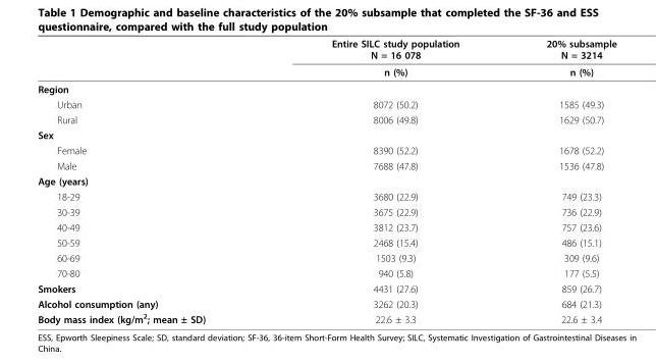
<table><thead><tr><td rowspan="2"></td><td rowspan="2">Entire SILC study population N = 16 078 n (%)</td><td rowspan="2">20% subsample N = 3214 n (%)</td></tr><tr></tr></thead><tbody><tr><td colspan="3">Region</td></tr><tr><td>Urban</td><td>8072 (50.2)</td><td>1585 (49.3)</td></tr><tr><td>Rural</td><td>8006 (49.8)</td><td>1629 (50.7)</td></tr><tr><td colspan="3">Sex</td></tr><tr><td>Female</td><td>8390 (52.2)</td><td>1678 (52.2)</td></tr><tr><td>Male</td><td>7688 (47.8)</td><td>1536 (47.8)</td></tr><tr><td colspan="3">Age (years)</td></tr><tr><td>18-29</td><td>3680 (22.9)</td><td>749 (23.3)</td></tr><tr><td>30-39</td><td>3675 (22.9)</td><td>736 (22.9)</td></tr><tr><td>40-49</td><td>3812 (23.7)</td><td>757 (23.6)</td></tr><tr><td>50-59</td><td>2468 (15.4)</td><td>486 (15.1)</td></tr><tr><td>60-69</td><td>1503 (9.3)</td><td>309 (9.6)</td></tr><tr><td>70-80</td><td>940 (5.8)</td><td>177 (5.5)</td></tr><tr><td>Smokers</td><td>4431 (27.6)</td><td>859 (26.7)</td></tr><tr><td>Alcohol consumption (any)</td><td>3262 (20.3)</td><td>684 (21.3)</td></tr><tr><td>Body mass index (kg/m<sup>2</sup>; mean ± SD)</td><td>22.6 ± 3.3</td><td>22.6 ± 3.4</td></tr></tbody></table>